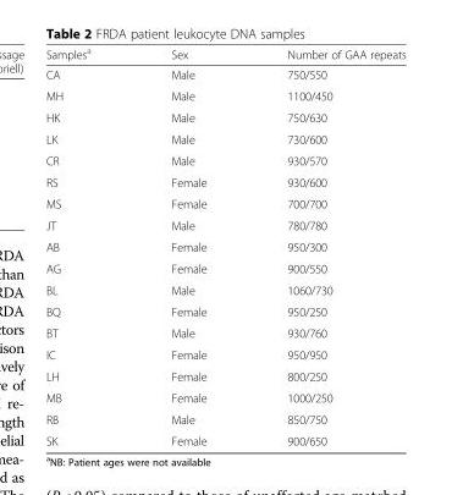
<table><thead><tr><td>Samples<sup>a</sup></td><td>Sex</td><td>Number of GAA repeats</td></tr></thead><tbody><tr><td>CA</td><td>Male</td><td>750/550</td></tr><tr><td>MH</td><td>Male</td><td>1100/450</td></tr><tr><td>HK</td><td>Male</td><td>750/630</td></tr><tr><td>LK</td><td>Male</td><td>730/600</td></tr><tr><td>CR</td><td>Male</td><td>930/570</td></tr><tr><td>RS</td><td>Female</td><td>930/600</td></tr><tr><td>MS</td><td>Female</td><td>700/700</td></tr><tr><td>JT</td><td>Male</td><td>780/780</td></tr><tr><td>AB</td><td>Female</td><td>950/300</td></tr><tr><td>AG</td><td>Female</td><td>900/550</td></tr><tr><td>BL</td><td>Male</td><td>1060/730</td></tr><tr><td>BQ</td><td>Female</td><td>950/250</td></tr><tr><td>BT</td><td>Male</td><td>930/760</td></tr><tr><td>IC</td><td>Female</td><td>950/950</td></tr><tr><td>LH</td><td>Female</td><td>800/250</td></tr><tr><td>MB</td><td>Female</td><td>1000/250</td></tr><tr><td>RB</td><td>Male</td><td>850/750</td></tr><tr><td>SK</td><td>Female</td><td>900/650</td></tr></tbody></table>